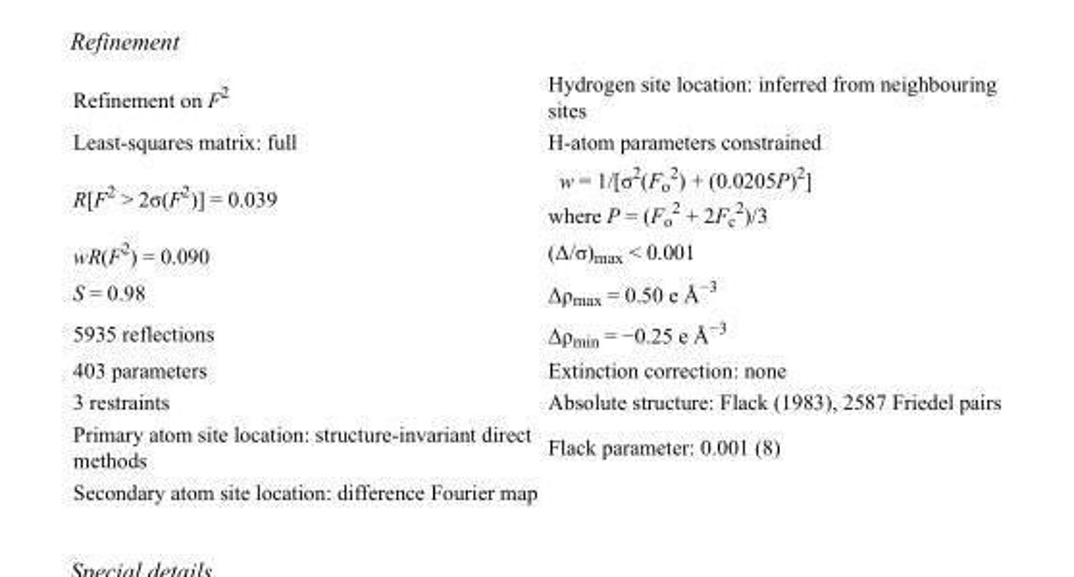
<table><tbody><tr><td>Refinement on F<sup>2</sup></td><td>Hydrogen site location: inferred from neighbouring sites</td></tr><tr><td>Least-squares matrix: full</td><td>H-atom parameters constrained</td></tr><tr><td>R[F<sup>2</sup> &gt; 2σ(F<sup>2</sup>)] = 0.039</td><td>w = 1/[σ<sup>2</sup>(F<sub>o</sub> <sup>2</sup>) + (0.0205P)<sup>2</sup>] where P = (F<sub>o</sub> <sup>2</sup> + 2F<sub>c</sub> <sup>2</sup>)/3</td></tr><tr><td>wR(F<sup>2</sup>) = 0.090</td><td>(Δ/σ)<sub>max</sub> &lt; 0.001</td></tr><tr><td>S = 0.98</td><td>Δρ<sub>max</sub> = 0.50 e Å<sup>−3</sup></td></tr><tr><td>5935 reflections</td><td>Δρ<sub>min</sub> = −0.25 e Å<sup>−3</sup></td></tr><tr><td>403 parameters</td><td>Extinction correction: none</td></tr><tr><td>3 restraints</td><td>Absolute structure: Flack (1983), 2587 Friedel pairs</td></tr><tr><td>Primary atom site location: structure-invariant direct methods</td><td>Flack parameter: 0.001 (8)</td></tr><tr><td>Secondary atom site location: difference Fourier map</td><td></td></tr></tbody></table>